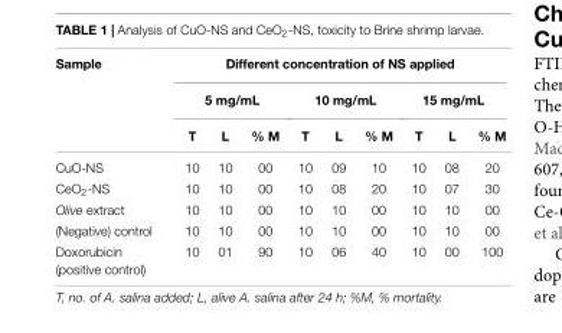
<table><thead><tr><td rowspan="3">Sample</td><td colspan="9">Different concentration of NS applied</td></tr><tr><td colspan="3">5 mg/mL</td><td colspan="3">10 mg/mL</td><td colspan="3">15 mg/mL</td></tr><tr><td>T</td><td>L</td><td>% M</td><td>T</td><td>L</td><td>% M</td><td>T</td><td>L</td><td>% M</td></tr></thead><tbody><tr><td>CuO-NS</td><td>10</td><td>10</td><td>00</td><td>10</td><td>09</td><td>10</td><td>10</td><td>08</td><td>20</td></tr><tr><td>CeO2-NS</td><td>10</td><td>10</td><td>00</td><td>10</td><td>08</td><td>20</td><td>10</td><td>07</td><td>30</td></tr><tr><td>Olive extract</td><td>10</td><td>10</td><td>00</td><td>10</td><td>10</td><td>00</td><td>10</td><td>10</td><td>00</td></tr><tr><td>(Negative) control</td><td>10</td><td>10</td><td>00</td><td>10</td><td>10</td><td>00</td><td>10</td><td>10</td><td>00</td></tr><tr><td>Doxorubicin (positive control)</td><td>10</td><td>01</td><td>90</td><td>10</td><td>06</td><td>40</td><td>10</td><td>00</td><td>100</td></tr></tbody></table>